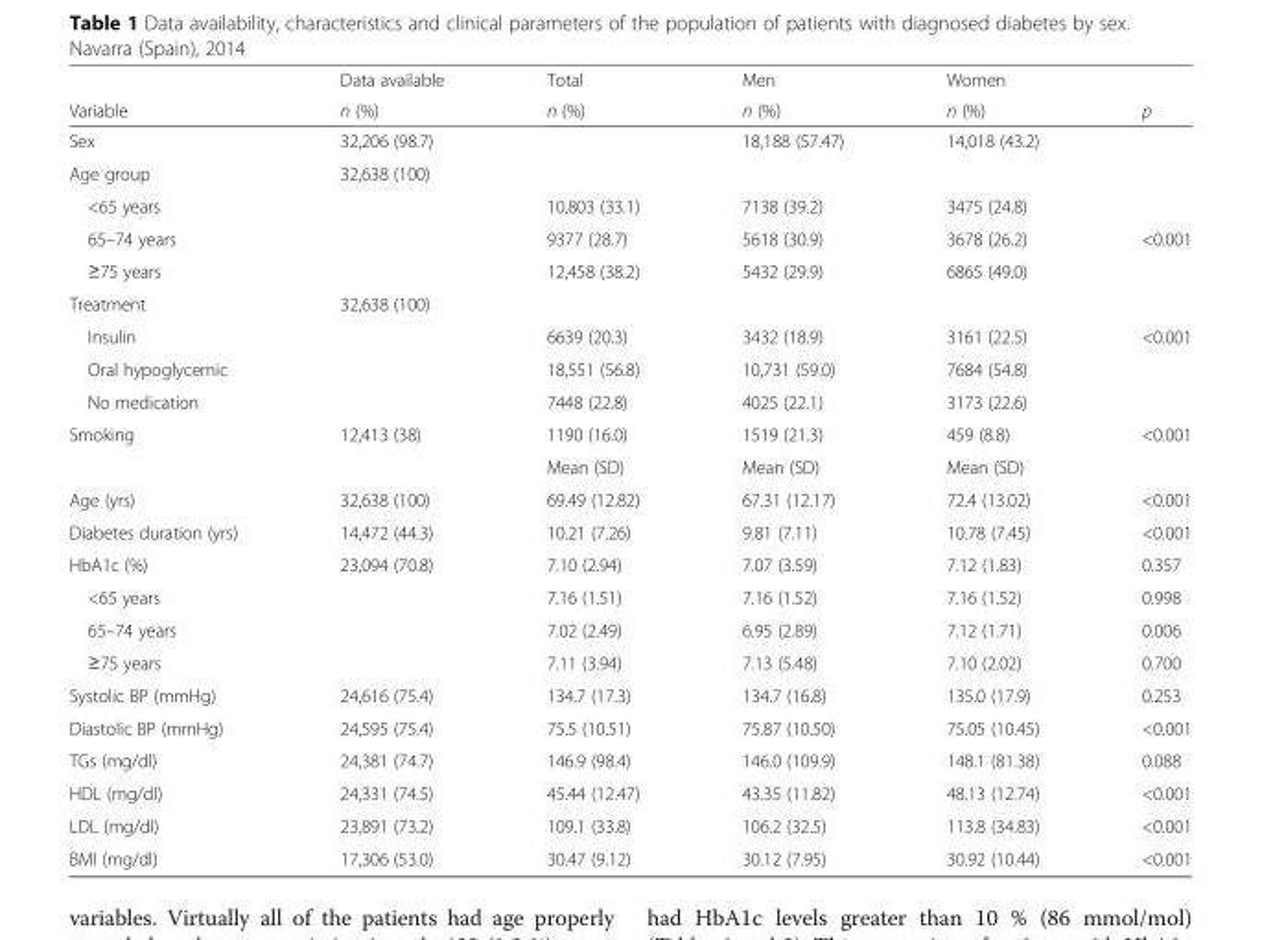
<table><thead><tr><td rowspan="2">Variable</td><td rowspan="2">Data available n (%)</td><td rowspan="2">Total n (%)</td><td rowspan="2">Men n (%)</td><td rowspan="2">Women n (%)</td><td rowspan="2">p</td></tr><tr></tr></thead><tbody><tr><td>Sex</td><td>32,206 (98.7)</td><td></td><td>18,188 (57.47)</td><td>14,018 (43.2)</td><td></td></tr><tr><td>Age group</td><td>32,638 (100)</td><td></td><td></td><td></td><td></td></tr><tr><td>&lt;65 years</td><td></td><td>10,803 (33.1)</td><td>7138 (39.2)</td><td>3475 (24.8)</td><td></td></tr><tr><td>65–74 years</td><td></td><td>9377 (28.7)</td><td>5618 (30.9)</td><td>3678 (26.2)</td><td>&lt;0.001</td></tr><tr><td>≥75 years</td><td></td><td>12,458 (38.2)</td><td>5432 (29.9)</td><td>6865 (49.0)</td><td></td></tr><tr><td>Treatment</td><td>32,638 (100)</td><td></td><td></td><td></td><td></td></tr><tr><td>Insulin</td><td></td><td>6639 (20.3)</td><td>3432 (18.9)</td><td>3161 (22.5)</td><td>&lt;0.001</td></tr><tr><td>Oral hypoglycemic</td><td></td><td>18,551 (56.8)</td><td>10,731 (59.0)</td><td>7684 (54.8)</td><td></td></tr><tr><td>No medication</td><td></td><td>7448 (22.8)</td><td>4025 (22.1)</td><td>3173 (22.6)</td><td></td></tr><tr><td rowspan="2">Smoking</td><td>12,413 (38)</td><td>1190 (16.0)</td><td>1519 (21.3)</td><td>459 (8.8)</td><td>&lt;0.001</td></tr><tr><td></td><td>Mean (SD)</td><td>Mean (SD)</td><td>Mean (SD)</td><td></td></tr><tr><td>Age (yrs)</td><td>32,638 (100)</td><td>69.49 (12.82)</td><td>67.31 (12.17)</td><td>72.4 (13.02)</td><td>&lt;0.001</td></tr><tr><td>Diabetes duration (yrs)</td><td>14,472 (44.3)</td><td>10.21 (7.26)</td><td>9.81 (7.11)</td><td>10.78 (7.45)</td><td>&lt;0.001</td></tr><tr><td>HbA1c (%)</td><td>23,094 (70.8)</td><td>7.10 (2.94)</td><td>7.07 (3.59)</td><td>7.12 (1.83)</td><td>0.357</td></tr><tr><td>&lt;65 years</td><td></td><td>7.16 (1.51)</td><td>7.16 (1.52)</td><td>7.16 (1.52)</td><td>0.998</td></tr><tr><td>65–74 years</td><td></td><td>7.02 (2.49)</td><td>6.95 (2.89)</td><td>7.12 (1.71)</td><td>0.006</td></tr><tr><td>≥75 years</td><td></td><td>7.11 (3.94)</td><td>7.13 (5.48)</td><td>7.10 (2.02)</td><td>0.700</td></tr><tr><td>Systolic BP (mmHg)</td><td>24,616 (75.4)</td><td>134.7 (17.3)</td><td>134.7 (16.8)</td><td>135.0 (17.9)</td><td>0.253</td></tr><tr><td>Diastolic BP (mmHg)</td><td>24,595 (75.4)</td><td>75.5 (10.51)</td><td>75.87 (10.50)</td><td>75.05 (10.45)</td><td>&lt;0.001</td></tr><tr><td>TGs (mg/dl)</td><td>24,381 (74.7)</td><td>146.9 (98.4)</td><td>146.0 (109.9)</td><td>148.1 (81.38)</td><td>0.088</td></tr><tr><td>HDL (mg/dl)</td><td>24,331 (74.5)</td><td>45.44 (12.47)</td><td>43.35 (11.82)</td><td>48.13 (12.74)</td><td>&lt;0.001</td></tr><tr><td>LDL (mg/dl)</td><td>23,891 (73.2)</td><td>109.1 (33.8)</td><td>106.2 (32.5)</td><td>113.8 (34.83)</td><td>&lt;0.001</td></tr><tr><td>BMI (mg/dl)</td><td>17,306 (53.0)</td><td>30.47 (9.12)</td><td>30.12 (7.95)</td><td>30.92 (10.44)</td><td>&lt;0.001</td></tr></tbody></table>